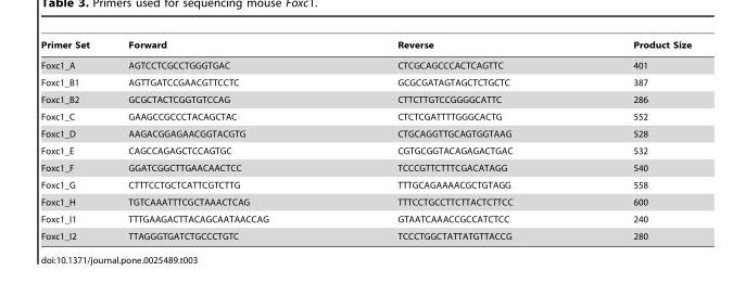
<table><thead><tr><td>Primer Set</td><td>Forward</td><td>Reverse</td><td>Product Size</td></tr></thead><tbody><tr><td>Foxc1_A</td><td>AGTCCTCGCCTGGGTGAC</td><td>CTCGCAGCCCACTCAGTTC</td><td>401</td></tr><tr><td>Foxc1_B1</td><td>AGTTGATCCGAACGTTCCTC</td><td>GCGCGATAGTAGCTCTGCTC</td><td>387</td></tr><tr><td>Foxc1_B2</td><td>GCGCTACTCGGTGTCCAG</td><td>CTTCTTGTCCGGGGCATTC</td><td>286</td></tr><tr><td>Foxc1_C</td><td>GAAGCCGCCCTACAGCTAC</td><td>CTCTCGATTTTGGGCACTG</td><td>552</td></tr><tr><td>Foxc1_D</td><td>AAGACGGAGAACGGTACGTG</td><td>CTGCAGGTTGCAGTGGTAAG</td><td>528</td></tr><tr><td>Foxc1_E</td><td>CAGCCAGAGCTCCAGTGC</td><td>CGTGCGGTACAGAGACTGAC</td><td>532</td></tr><tr><td>Foxc1_F</td><td>GGATCGGCTTGAACAACTCC</td><td>TCCCGTTCTTTCGACATAGG</td><td>540</td></tr><tr><td>Foxc1_G</td><td>CTTTCCTGCTCATTCGTCTTG</td><td>TTTGCAGAAAACGCTGTAGG</td><td>558</td></tr><tr><td>Foxc1_H</td><td>TGTCAAATTTCGCTAAACTCAG</td><td>TTTCCTGCCTTCTTACTCTTCC</td><td>600</td></tr><tr><td>Foxc1_I1</td><td>TTTGAAGACTTACAGCAATAACCAG</td><td>GTAATCAAACCGCCATCTCC</td><td>240</td></tr><tr><td>Foxc1_I2</td><td>TTAGGGTGATCTGCCCTGTC</td><td>TCCCTGGCTATTATGTTACCG</td><td>280</td></tr></tbody></table>